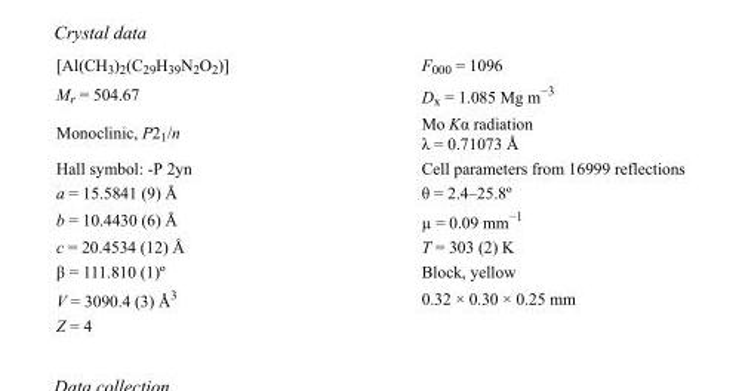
<table><tbody><tr><td>[Al(CH<sub>3</sub>)<sub>2</sub>(C<sub>29</sub>H<sub>39</sub>N<sub>2</sub>O<sub>2</sub>)]</td><td>F000 = 1096</td></tr><tr><td>M<sub>r</sub> = 504.67</td><td>D<sub>x</sub> = 1.085 Mg m<sup>−3</sup></td></tr><tr><td>Monoclinic, P2<sub>1</sub>/n</td><td>Mo Kα radiation λ = 0.71073 Å</td></tr><tr><td>Hall symbol: -P 2yn</td><td>Cell parameters from 16999 reflections</td></tr><tr><td>a = 15.5841 (9) Å</td><td>θ = 2.4–25.8º</td></tr><tr><td>b = 10.4430 (6) Å</td><td>µ = 0.09 mm<sup>−1</sup></td></tr><tr><td>c = 20.4534 (12) Å</td><td>T = 303 (2) K</td></tr><tr><td>β = 111.810 (1)º</td><td>Block, yellow</td></tr><tr><td>V = 3090.4 (3) Å<sup>3</sup></td><td>0.32 × 0.30 × 0.25 mm</td></tr><tr><td>Z = 4</td><td></td></tr></tbody></table>